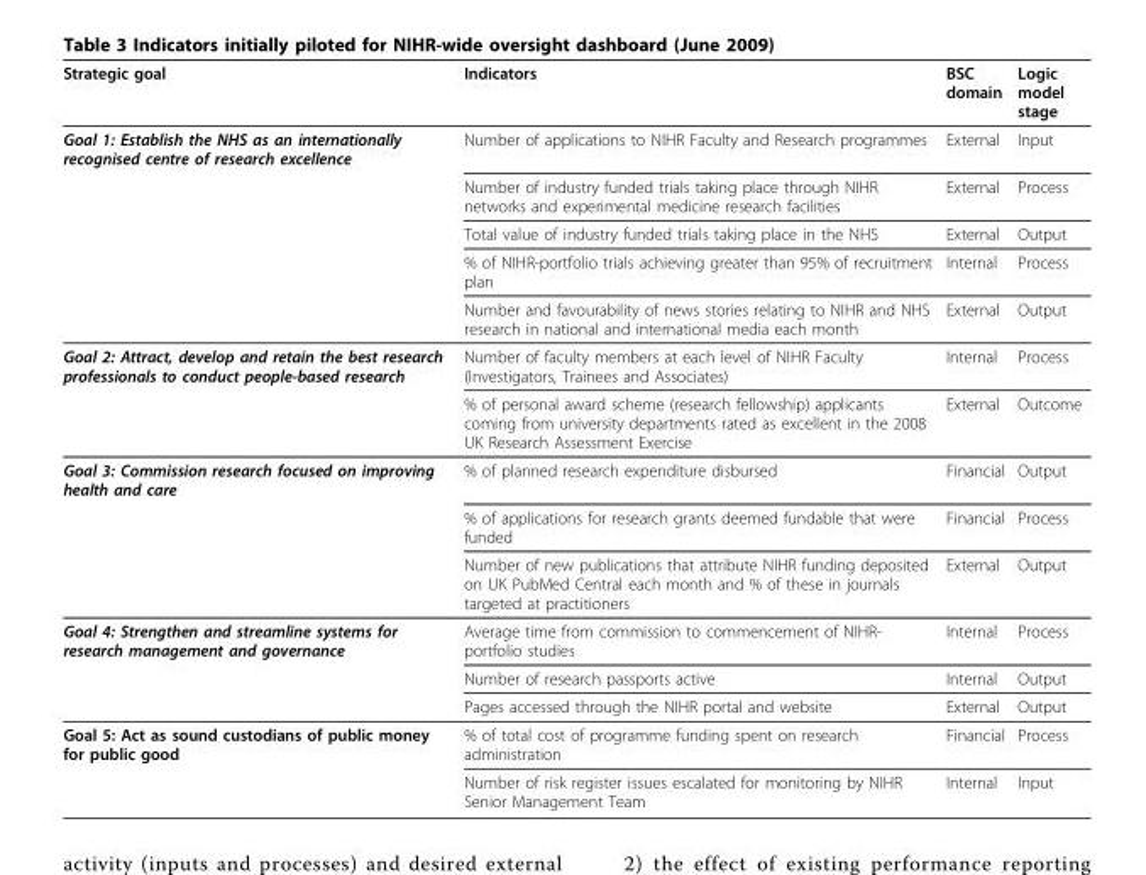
<table><thead><tr><td>Strategic goal</td><td>Indicators</td><td>BSC domain</td><td>Logic model stage</td></tr></thead><tbody><tr><td rowspan="5">Goal 1: Establish the NHS as an internationally recognised centre of research excellence</td><td>Number of applications to NIHR Faculty and Research programmes</td><td>External</td><td>Input</td></tr><tr><td>Number of industry funded trials taking place through NIHR networks and experimental medicine research facilities</td><td>External</td><td>Process</td></tr><tr><td>Total value of industry funded trials taking place in the NHS</td><td>External</td><td>Output</td></tr><tr><td>% of NIHR-portfolio trials achieving greater than 95% of recruitment plan</td><td>Internal</td><td>Process</td></tr><tr><td>Number and favourability of news stories relating to NIHR and NHS research in national and international media each month</td><td>External</td><td>Output</td></tr><tr><td rowspan="2">Goal 2: Attract, develop and retain the best research professionals to conduct people-based research</td><td>Number of faculty members at each level of NIHR Faculty (Investigators, Trainees and Associates)</td><td>Internal</td><td>Process</td></tr><tr><td>% of personal award scheme (research fellowship) applicants coming from university departments rated as excellent in the 2008 UK Research Assessment Exercise</td><td>External</td><td>Outcome</td></tr><tr><td rowspan="3">Goal 3: Commission research focused on improving health and care</td><td>% of planned research expenditure disbursed</td><td>Financial</td><td>Output</td></tr><tr><td>% of applications for research grants deemed fundable that were funded</td><td>Financial</td><td>Process</td></tr><tr><td>Number of new publications that attribute NIHR funding deposited on UK PubMed Central each month and % of these in journals targeted at practitioners</td><td>External</td><td>Output</td></tr><tr><td rowspan="3">Goal 4: Strengthen and streamline systems for research management and governance</td><td>Average time from commission to commencement of NIHR- portfolio studies</td><td>Internal</td><td>Process</td></tr><tr><td>Number of research passports active</td><td>Internal</td><td>Output</td></tr><tr><td>Pages accessed through the NIHR portal and website</td><td>External</td><td>Output</td></tr><tr><td rowspan="2">Goal 5: Act as sound custodians of public money for public good</td><td>% of total cost of programme funding spent on research administration</td><td>Financial</td><td>Process</td></tr><tr><td>Number of risk register issues escalated for monitoring by NIHR Senior Management Team</td><td>Internal</td><td>Input</td></tr></tbody></table>